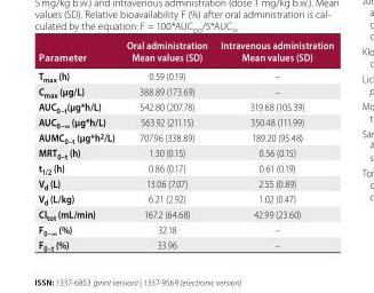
<table><thead><tr><td>Parameter</td><td>Oral administration Mean values (SD)</td><td>Intravenous administration Mean values (SD)</td></tr></thead><tbody><tr><td>T<sub>max</sub> (h)</td><td>0.59 (0.19)</td><td>–</td></tr><tr><td>C<sub>max</sub> (μg/L)</td><td>388.89 (173.69)</td><td>–</td></tr><tr><td>AUC<sub>0–t</sub>(μg*h/L)</td><td>542.80 (207.78)</td><td>319.68 (105.39)</td></tr><tr><td>AUC<sub>0–∞</sub> (μg*h/L)</td><td>563.92 (211.15)</td><td>350.48 (111.99)</td></tr><tr><td>AUMC<sub>0–t</sub> (μg*h<sup>2</sup>/L)</td><td>707.96 (338.89)</td><td>189.20 (95.48)</td></tr><tr><td>MRT<sub>0–t</sub> (h)</td><td>1.30 (0.15)</td><td>0.56 (0.15)</td></tr><tr><td>t<sub>1/2</sub> (h)</td><td>0.86 (0.17)</td><td>0.61 (0.19)</td></tr><tr><td>V<sub>d</sub> (L)</td><td>13.06 (7.07)</td><td>2.55 (0.89)</td></tr><tr><td>V<sub>d</sub> (L/kg)</td><td>6.21 (2.92)</td><td>1.02 (0.47)</td></tr><tr><td>Cl<sub>tot</sub> (mL/min)</td><td>167.2 (64.68)</td><td>42.99 (23.60)</td></tr><tr><td>F<sub>0–∞</sub> (%)</td><td>32.18</td><td>–</td></tr><tr><td>F<sub>0–t</sub> (%)</td><td>33.96</td><td>–</td></tr></tbody></table>